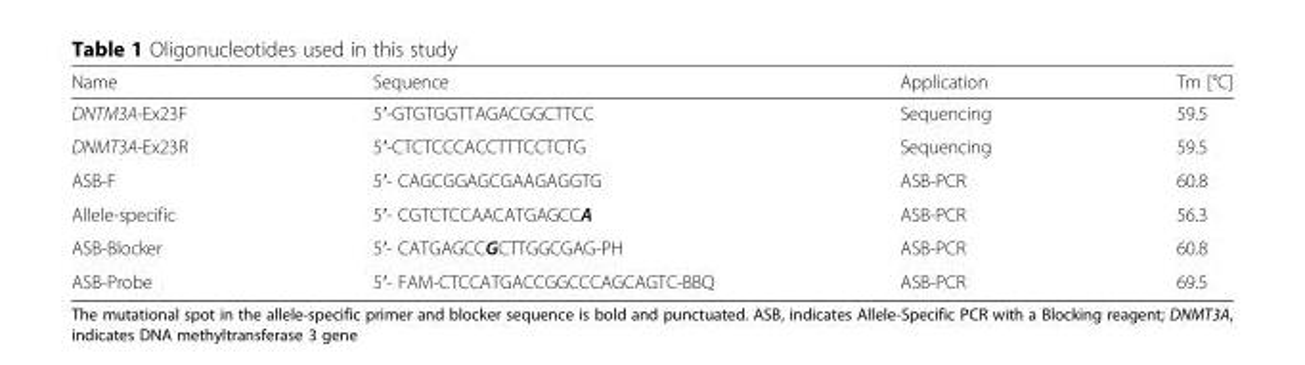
<table><thead><tr><td>Name</td><td>Sequence</td><td>Application</td><td>Tm [°C]</td></tr></thead><tbody><tr><td>DNTM3A-Ex23F</td><td>5′-GTGTGGTTAGACGGCTTCC</td><td>Sequencing</td><td>59.5</td></tr><tr><td>DNMT3A-Ex23R</td><td>5′-CTCTCCCACCTTTCCTCTG</td><td>Sequencing</td><td>59.5</td></tr><tr><td>ASB-F</td><td>5′- CAGCGGAGCGAAGAGGTG</td><td>ASB-PCR</td><td>60.8</td></tr><tr><td>Allele-specific</td><td>5′- CGTCTCCAACATGAGCCA</td><td>ASB-PCR</td><td>56.3</td></tr><tr><td>ASB-Blocker</td><td>5′- CATGAGCCGCTTGGCGAG-PH</td><td>ASB-PCR</td><td>60.8</td></tr><tr><td>ASB-Probe</td><td>5′- FAM-CTCCATGACCGGCCCAGCAGTC-BBQ</td><td>ASB-PCR</td><td>69.5</td></tr></tbody></table>